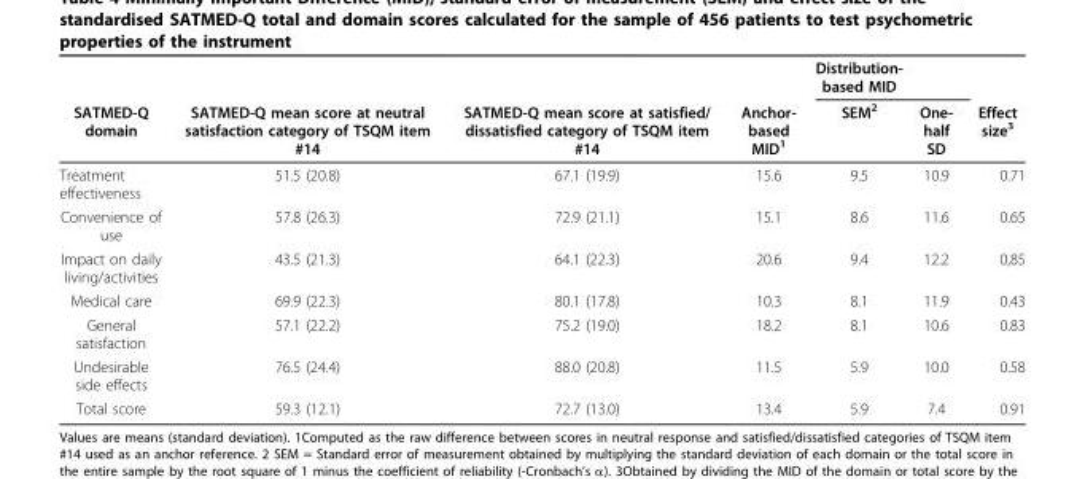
<table><thead><tr><td rowspan="2">SATMED-Q domain</td><td rowspan="2">SATMED-Q mean score at neutral satisfaction category of TSQM item #14</td><td rowspan="2">SATMED-Q mean score at satisfied/ dissatisfied category of TSQM item #14</td><td rowspan="2">Anchor- based MID<sup>1</sup></td><td rowspan="2">Distribution- based MID SEM<sup>2</sup></td><td rowspan="2">One- half SD</td><td rowspan="2">Effect size<sup>3</sup></td></tr><tr></tr></thead><tbody><tr><td>Treatment effectiveness</td><td>51.5 (20.8)</td><td>67.1 (19.9)</td><td>15.6</td><td>9.5</td><td>10.9</td><td>0.71</td></tr><tr><td>Convenience of use</td><td>57.8 (26.3)</td><td>72.9 (21.1)</td><td>15.1</td><td>8.6</td><td>11.6</td><td>0.65</td></tr><tr><td>Impact on daily living/activities</td><td>43.5 (21.3)</td><td>64.1 (22.3)</td><td>20.6</td><td>9.4</td><td>12.2</td><td>0,85</td></tr><tr><td>Medical care</td><td>69.9 (22.3)</td><td>80.1 (17.8)</td><td>10.3</td><td>8.1</td><td>11.9</td><td>0.43</td></tr><tr><td>General satisfaction</td><td>57.1 (22.2)</td><td>75.2 (19.0)</td><td>18.2</td><td>8.1</td><td>10.6</td><td>0.83</td></tr><tr><td>Undesirable side effects</td><td>76.5 (24.4)</td><td>88.0 (20.8)</td><td>11.5</td><td>5.9</td><td>10.0</td><td>0.58</td></tr><tr><td>Total score</td><td>59.3 (12.1)</td><td>72.7 (13.0)</td><td>13.4</td><td>5.9</td><td>7.4</td><td>0.91</td></tr></tbody></table>